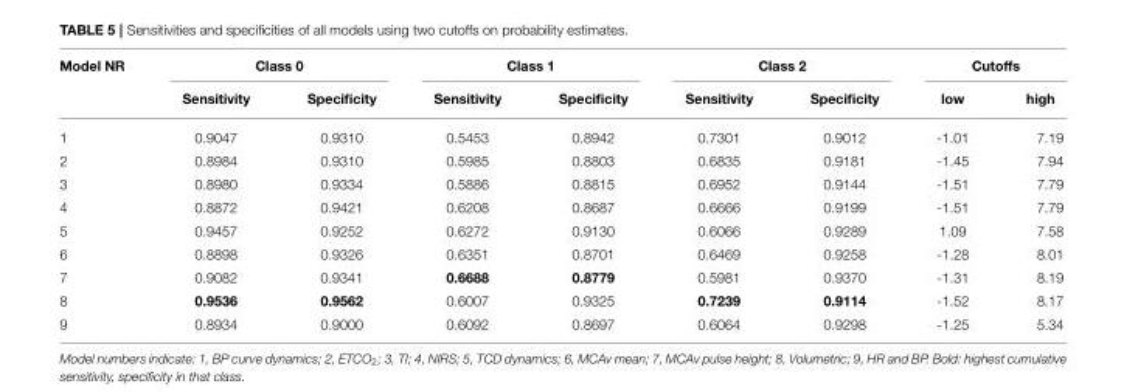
<table><thead><tr><td rowspan="2">Model NR</td><td colspan="2">Class 0</td><td colspan="2">Class 1</td><td colspan="2">Class 2</td><td colspan="2">Cutoffs</td></tr><tr><td>Sensitivity</td><td>Specificity</td><td>Sensitivity</td><td>Specificity</td><td>Sensitivity</td><td>Specificity</td><td>low</td><td>high</td></tr></thead><tbody><tr><td>1</td><td>0.9047</td><td>0.9310</td><td>0.5453</td><td>0.8942</td><td>0.7301</td><td>0.9012</td><td>-1.01</td><td>7.19</td></tr><tr><td>2</td><td>0.8984</td><td>0.9310</td><td>0.5985</td><td>0.8803</td><td>0.6835</td><td>0.9181</td><td>-1.45</td><td>7.94</td></tr><tr><td>3</td><td>0.8980</td><td>0.9334</td><td>0.5886</td><td>0.8815</td><td>0.6952</td><td>0.9144</td><td>-1.51</td><td>7.79</td></tr><tr><td>4</td><td>0.8872</td><td>0.9421</td><td>0.6208</td><td>0.8687</td><td>0.6666</td><td>0.9199</td><td>-1.51</td><td>7.79</td></tr><tr><td>5</td><td>0.9457</td><td>0.9252</td><td>0.6272</td><td>0.9130</td><td>0.6066</td><td>0.9289</td><td>1.09</td><td>7.58</td></tr><tr><td>6</td><td>0.8898</td><td>0.9326</td><td>0.6351</td><td>0.8701</td><td>0.6469</td><td>0.9258</td><td>-1.28</td><td>8.01</td></tr><tr><td>7</td><td>0.9082</td><td>0.9341</td><td>0.6688</td><td>0.8779</td><td>0.5981</td><td>0.9370</td><td>-1.31</td><td>8.19</td></tr><tr><td>8</td><td>0.9536</td><td>0.9562</td><td>0.6007</td><td>0.9325</td><td>0.7239</td><td>0.9114</td><td>-1.52</td><td>8.17</td></tr><tr><td>9</td><td>0.8934</td><td>0.9000</td><td>0.6092</td><td>0.8697</td><td>0.6064</td><td>0.9298</td><td>-1.25</td><td>5.34</td></tr></tbody></table>